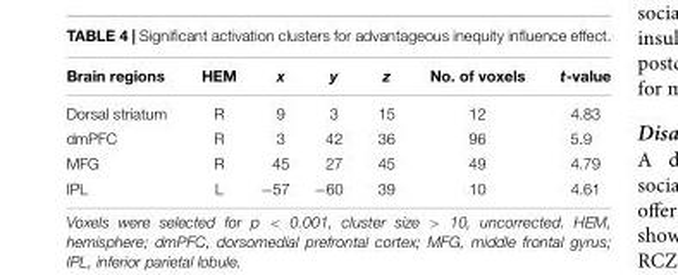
<table><thead><tr><td>Brain regions</td><td>HEM</td><td>x</td><td>y</td><td>z</td><td>No. of voxels</td><td>t-value</td></tr></thead><tbody><tr><td>Dorsal striatum</td><td>R</td><td>9</td><td>3</td><td>15</td><td>12</td><td>4.83</td></tr><tr><td>dmPFC</td><td>R</td><td>3</td><td>42</td><td>36</td><td>96</td><td>5.9</td></tr><tr><td>MFG</td><td>R</td><td>45</td><td>27</td><td>45</td><td>49</td><td>4.79</td></tr><tr><td>IPL</td><td>L</td><td>−57</td><td>−60</td><td>39</td><td>10</td><td>4.61</td></tr></tbody></table>